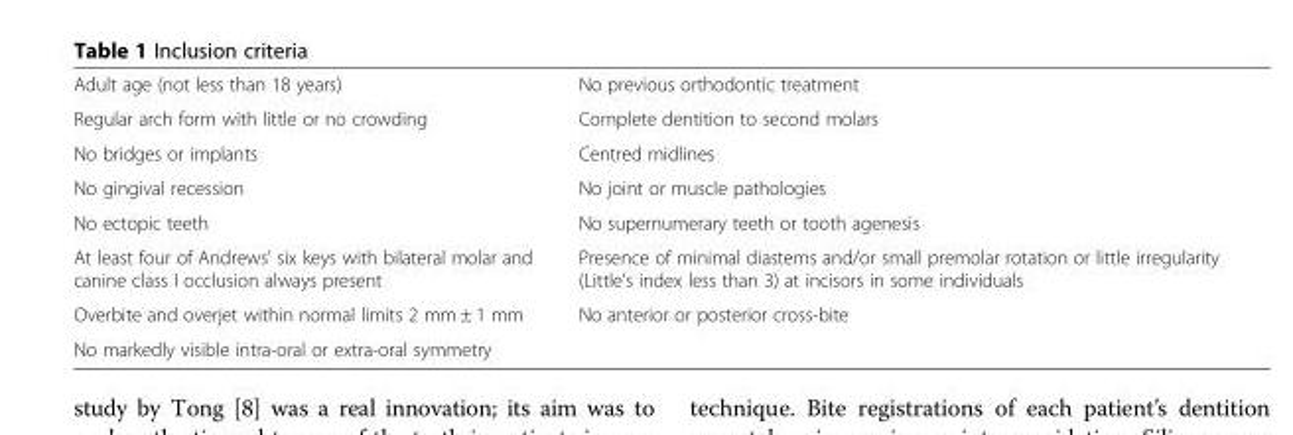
<table><tbody><tr><td>Adult age (not less than 18 years)</td><td>No previous orthodontic treatment</td></tr><tr><td>Regular arch form with little or no crowding</td><td>Complete dentition to second molars</td></tr><tr><td>No bridges or implants</td><td>Centred midlines</td></tr><tr><td>No gingival recession</td><td>No joint or muscle pathologies</td></tr><tr><td>No ectopic teeth</td><td>No supernumerary teeth or tooth agenesis</td></tr><tr><td>At least four of Andrews’ six keys with bilateral molar and canine class I occlusion always present</td><td>Presence of minimal diastems and/or small premolar rotation or little irregularity (Little’s index less than 3) at incisors in some individuals</td></tr><tr><td>Overbite and overjet within normal limits 2 mm ± 1 mm</td><td>No anterior or posterior cross-bite</td></tr><tr><td>No markedly visible intra-oral or extra-oral symmetry</td><td></td></tr></tbody></table>